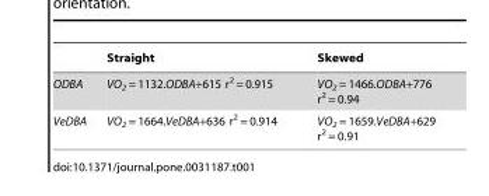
<table><thead><tr><td></td><td>Straight</td><td>Skewed</td></tr></thead><tbody><tr><td>ODBA</td><td>VO<sub>2</sub> = 1132.ODBA+615 r<sup>2</sup> = 0.915</td><td>VO<sub>2</sub> = 1466.ODBA+776 r<sup>2</sup> = 0.94</td></tr><tr><td>VeDBA</td><td>VO<sub>2</sub> = 1664.VeDBA+636 r<sup>2</sup> = 0.914</td><td>VO<sub>2</sub> = 1659.VeDBA+629 r<sup>2</sup> = 0.91</td></tr></tbody></table>